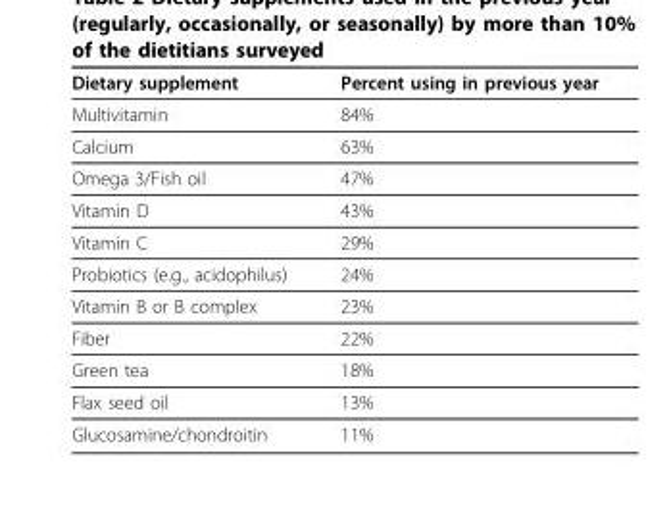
<table><thead><tr><td>Dietary supplement</td><td>Percent using in previous year</td></tr></thead><tbody><tr><td>Multivitamin</td><td>84%</td></tr><tr><td>Calcium</td><td>63%</td></tr><tr><td>Omega 3/Fish oil</td><td>47%</td></tr><tr><td>Vitamin D</td><td>43%</td></tr><tr><td>Vitamin C</td><td>29%</td></tr><tr><td>Probiotics (e.g., acidophilus)</td><td>24%</td></tr><tr><td>Vitamin B or B complex</td><td>23%</td></tr><tr><td>Fiber</td><td>22%</td></tr><tr><td>Green tea</td><td>18%</td></tr><tr><td>Flax seed oil</td><td>13%</td></tr><tr><td>Glucosamine/chondroitin</td><td>11%</td></tr></tbody></table>